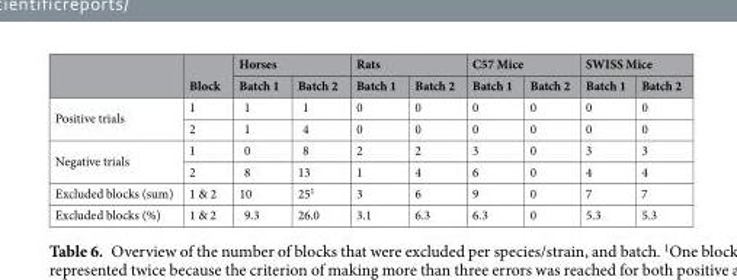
<table><thead><tr><td rowspan="2"></td><td rowspan="2">Block</td><td colspan="2">Horses</td><td colspan="2">Rats</td><td colspan="2">C57 Mice</td><td colspan="2">SWISS Mice</td></tr><tr><td>Batch 1</td><td>Batch 2</td><td>Batch 1</td><td>Batch 2</td><td>Batch 1</td><td>Batch 2</td><td>Batch 1</td><td>Batch 2</td></tr></thead><tbody><tr><td rowspan="2">Positive trials</td><td>1</td><td>1</td><td>1</td><td>0</td><td>0</td><td>0</td><td>0</td><td>0</td><td>0</td></tr><tr><td>2</td><td>1</td><td>4</td><td>0</td><td>0</td><td>0</td><td>0</td><td>0</td><td>0</td></tr><tr><td rowspan="2">Negative trials</td><td>1</td><td>0</td><td>8</td><td>2</td><td>2</td><td>3</td><td>0</td><td>3</td><td>3</td></tr><tr><td>2</td><td>8</td><td>13</td><td>1</td><td>4</td><td>6</td><td>0</td><td>4</td><td>4</td></tr><tr><td>Excluded blocks (sum)</td><td>1 &amp; 2</td><td>10</td><td>25<sup>1</sup></td><td>3</td><td>6</td><td>9</td><td>0</td><td>7</td><td>7</td></tr><tr><td>Excluded blocks (%)</td><td>1 &amp; 2</td><td>9.3</td><td>26.0</td><td>3.1</td><td>6.3</td><td>6.3</td><td>0</td><td>5.3</td><td>5.3</td></tr></tbody></table>